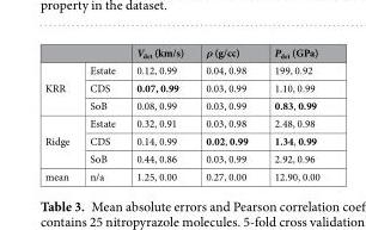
<table><thead><tr><td></td><td></td><td>V<sub>det</sub> (km/s)</td><td>ρ (g/cc)</td><td>P<sub>det</sub> (GPa)</td></tr></thead><tbody><tr><td rowspan="3">KRR</td><td>Estate</td><td>0.12, 0.99</td><td>0.04, 0.98</td><td>199, 0.92</td></tr><tr><td>CDS</td><td>0.07, 0.99</td><td>0.03, 0.99</td><td>1.10, 0.99</td></tr><tr><td>SoB</td><td>0.08, 0.99</td><td>0.03, 0.99</td><td>0.83, 0.99</td></tr><tr><td rowspan="3">Ridge</td><td>Estate</td><td>0.32, 0.91</td><td>0.03, 0.98</td><td>2.48, 0.98</td></tr><tr><td>CDS</td><td>0.14, 0.99</td><td>0.02, 0.99</td><td>1.34, 0.99</td></tr><tr><td>SoB</td><td>0.44, 0.86</td><td>0.03, 0.99</td><td>2.92, 0.96</td></tr><tr><td>mean</td><td>n/a</td><td>1.25, 0.00</td><td>0.27, 0.00</td><td>12.90, 0.00</td></tr></tbody></table>